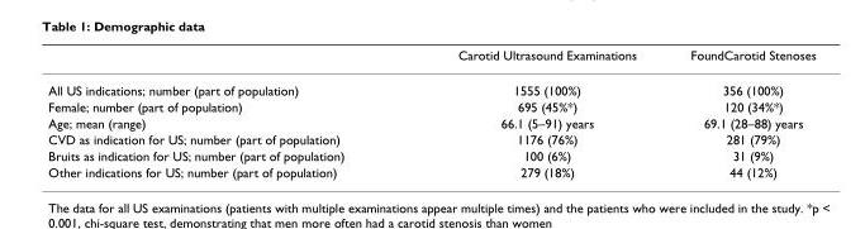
<table><thead><tr><td></td><td>Carotid Ultrasound Examinations</td><td>FoundCarotid Stenoses</td></tr></thead><tbody><tr><td>All US indications; number (part of population)</td><td>1555 (100%)</td><td>356 (100%)</td></tr><tr><td>Female; number (part of population)</td><td>695 (45%*)</td><td>120 (34%*)</td></tr><tr><td>Age; mean (range)</td><td>66.1 (5–91) years</td><td>69.1 (28–88) years</td></tr><tr><td>CVD as indication for US; number (part of population)</td><td>1176 (76%)</td><td>281 (79%)</td></tr><tr><td>Bruits as indication for US; number (part of population)</td><td>100 (6%)</td><td>31 (9%)</td></tr><tr><td>Other indications for US; number (part of population)</td><td>279 (18%)</td><td>44 (12%)</td></tr></tbody></table>